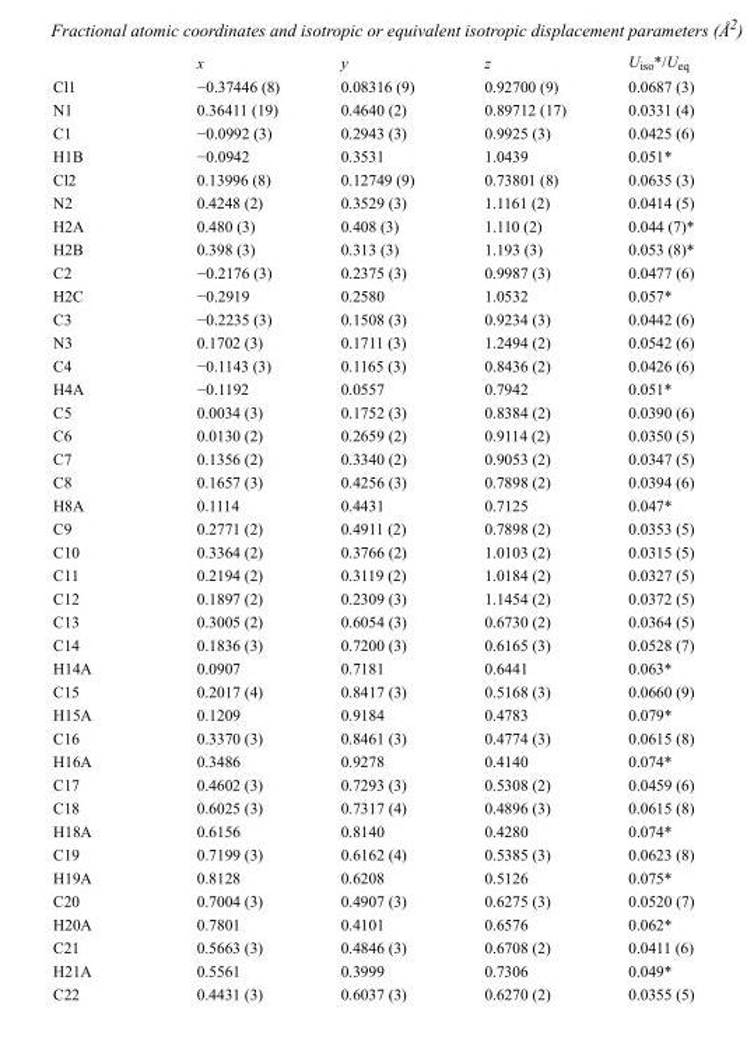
<table><thead><tr><td></td><td>x</td><td>y</td><td>z</td><td>U<sub>iso</sub>*/U<sub>eq</sub></td></tr></thead><tbody><tr><td>Cl1</td><td>−0.37446 (8)</td><td>0.08316 (9)</td><td>0.92700 (9)</td><td>0.0687 (3)</td></tr><tr><td>N1</td><td>0.36411 (19)</td><td>0.4640 (2)</td><td>0.89712 (17)</td><td>0.0331 (4)</td></tr><tr><td>C1</td><td>−0.0992 (3)</td><td>0.2943 (3)</td><td>0.9925 (3)</td><td>0.0425 (6)</td></tr><tr><td>H1B</td><td>−0.0942</td><td>0.3531</td><td>1.0439</td><td>0.051*</td></tr><tr><td>Cl2</td><td>0.13996 (8)</td><td>0.12749 (9)</td><td>0.73801 (8)</td><td>0.0635 (3)</td></tr><tr><td>N2</td><td>0.4248 (2)</td><td>0.3529 (3)</td><td>1.1161 (2)</td><td>0.0414 (5)</td></tr><tr><td>H2A</td><td>0.480 (3)</td><td>0.408 (3)</td><td>1.110 (2)</td><td>0.044 (7)*</td></tr><tr><td>H2B</td><td>0.398 (3)</td><td>0.313 (3)</td><td>1.193 (3)</td><td>0.053 (8)*</td></tr><tr><td>C2</td><td>−0.2176 (3)</td><td>0.2375 (3)</td><td>0.9987 (3)</td><td>0.0477 (6)</td></tr><tr><td>H2C</td><td>−0.2919</td><td>0.2580</td><td>1.0532</td><td>0.057*</td></tr><tr><td>C3</td><td>−0.2235 (3)</td><td>0.1508 (3)</td><td>0.9234 (3)</td><td>0.0442 (6)</td></tr><tr><td>N3</td><td>0.1702 (3)</td><td>0.1711 (3)</td><td>1.2494 (2)</td><td>0.0542 (6)</td></tr><tr><td>C4</td><td>−0.1143 (3)</td><td>0.1165 (3)</td><td>0.8436 (2)</td><td>0.0426 (6)</td></tr><tr><td>H4A</td><td>−0.1192</td><td>0.0557</td><td>0.7942</td><td>0.051*</td></tr><tr><td>C5</td><td>0.0034 (3)</td><td>0.1752 (3)</td><td>0.8384 (2)</td><td>0.0390 (6)</td></tr><tr><td>C6</td><td>0.0130 (2)</td><td>0.2659 (2)</td><td>0.9114 (2)</td><td>0.0350 (5)</td></tr><tr><td>C7</td><td>0.1356 (2)</td><td>0.3340 (2)</td><td>0.9053 (2)</td><td>0.0347 (5)</td></tr><tr><td>C8</td><td>0.1657 (3)</td><td>0.4256 (3)</td><td>0.7898 (2)</td><td>0.0394 (6)</td></tr><tr><td>H8A</td><td>0.1114</td><td>0.4431</td><td>0.7125</td><td>0.047*</td></tr><tr><td>C9</td><td>0.2771 (2)</td><td>0.4911 (2)</td><td>0.7898 (2)</td><td>0.0353 (5)</td></tr><tr><td>C10</td><td>0.3364 (2)</td><td>0.3766 (2)</td><td>1.0103 (2)</td><td>0.0315 (5)</td></tr><tr><td>C11</td><td>0.2194 (2)</td><td>0.3119 (2)</td><td>1.0184 (2)</td><td>0.0327 (5)</td></tr><tr><td>C12</td><td>0.1897 (2)</td><td>0.2309 (3)</td><td>1.1454 (2)</td><td>0.0372 (5)</td></tr><tr><td>C13</td><td>0.3005 (2)</td><td>0.6054 (3)</td><td>0.6730 (2)</td><td>0.0364 (5)</td></tr><tr><td>C14</td><td>0.1836 (3)</td><td>0.7200 (3)</td><td>0.6165 (3)</td><td>0.0528 (7)</td></tr><tr><td>H14A</td><td>0.0907</td><td>0.7181</td><td>0.6441</td><td>0.063*</td></tr><tr><td>C15</td><td>0.2017 (4)</td><td>0.8417 (3)</td><td>0.5168 (3)</td><td>0.0660 (9)</td></tr><tr><td>H15A</td><td>0.1209</td><td>0.9184</td><td>0.4783</td><td>0.079*</td></tr><tr><td>C16</td><td>0.3370 (3)</td><td>0.8461 (3)</td><td>0.4774 (3)</td><td>0.0615 (8)</td></tr><tr><td>H16A</td><td>0.3486</td><td>0.9278</td><td>0.4140</td><td>0.074*</td></tr><tr><td>C17</td><td>0.4602 (3)</td><td>0.7293 (3)</td><td>0.5308 (2)</td><td>0.0459 (6)</td></tr><tr><td>C18</td><td>0.6025 (3)</td><td>0.7317 (4)</td><td>0.4896 (3)</td><td>0.0615 (8)</td></tr><tr><td>H18A</td><td>0.6156</td><td>0.8140</td><td>0.4280</td><td>0.074*</td></tr><tr><td>C19</td><td>0.7199 (3)</td><td>0.6162 (4)</td><td>0.5385 (3)</td><td>0.0623 (8)</td></tr><tr><td>H19A</td><td>0.8128</td><td>0.6208</td><td>0.5126</td><td>0.075*</td></tr><tr><td>C20</td><td>0.7004 (3)</td><td>0.4907 (3)</td><td>0.6275 (3)</td><td>0.0520 (7)</td></tr><tr><td>H20A</td><td>0.7801</td><td>0.4101</td><td>0.6576</td><td>0.062*</td></tr><tr><td>C21</td><td>0.5663 (3)</td><td>0.4846 (3)</td><td>0.6708 (2)</td><td>0.0411 (6)</td></tr><tr><td>H21A</td><td>0.5561</td><td>0.3999</td><td>0.7306</td><td>0.049*</td></tr><tr><td>C22</td><td>0.4431 (3)</td><td>0.6037 (3)</td><td>0.6270 (2)</td><td>0.0355 (5)</td></tr></tbody></table>